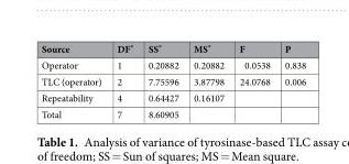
<table><thead><tr><td>Source</td><td>DF*</td><td>SS*</td><td>MS*</td><td>F</td><td>P</td></tr></thead><tbody><tr><td>Operator</td><td>1</td><td>0.20882</td><td>0.20882</td><td>0.0538</td><td>0.838</td></tr><tr><td>TLC (operator)</td><td>2</td><td>7.75596</td><td>3.87798</td><td>24.0768</td><td>0.006</td></tr><tr><td>Repeatability</td><td>4</td><td>0.64427</td><td>0.16107</td><td></td><td></td></tr><tr><td>Total</td><td>7</td><td>8.60905</td><td></td><td></td><td></td></tr></tbody></table>